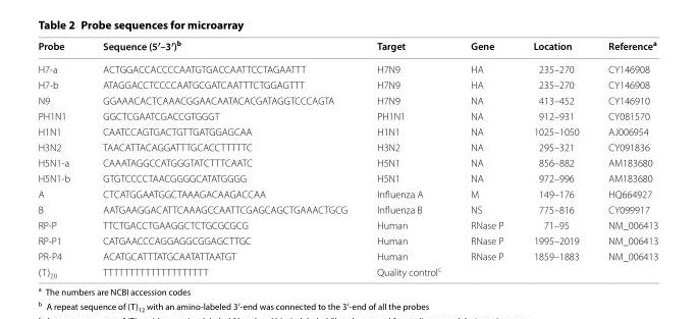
<table><thead><tr><td>Probe</td><td>Sequence (5′–3′)<sup>b</sup></td><td>Target</td><td>Gene</td><td>Location</td><td>Reference<sup>a</sup></td></tr></thead><tbody><tr><td>H7-a</td><td>ACTGGACCACCCCAATGTGACCAATTCCTAGAATTT</td><td>H7N9</td><td>HA</td><td>235–270</td><td>CY146908</td></tr><tr><td>H7-b</td><td>ATAGGACCTCCCCAATGCGATCAATTTCTGGAGTTT</td><td>H7N9</td><td>HA</td><td>235–270</td><td>CY146908</td></tr><tr><td>N9</td><td>GGAAACACTCAAACGGAACAATACACGATAGGTCCCAGTA</td><td>H7N9</td><td>NA</td><td>413–452</td><td>CY146910</td></tr><tr><td>PH1N1</td><td>GGCTCGAATCGACCGTGGGT</td><td>PH1N1</td><td>NA</td><td>912–931</td><td>CY081570</td></tr><tr><td>H1N1</td><td>CAATCCAGTGACTGTTGATGGAGCAA</td><td>H1N1</td><td>NA</td><td>1025–1050</td><td>AJ006954</td></tr><tr><td>H3N2</td><td>TAACATTACAGGATTTGCACCTTTTTC</td><td>H3N2</td><td>NA</td><td>295–321</td><td>CY091836</td></tr><tr><td>H5N1-a</td><td>CAAATAGGCCATGGGTATCTTTCAATC</td><td>H5N1</td><td>NA</td><td>856–882</td><td>AM183680</td></tr><tr><td>H5N1-b</td><td>GTGTCCCCTAACGGGGCATATGGGG</td><td>H5N1</td><td>NA</td><td>972–996</td><td>AM183680</td></tr><tr><td>A</td><td>CTCATGGAATGGCTAAAGACAAGACCAA</td><td>Influenza A</td><td>M</td><td>149–176</td><td>HQ664927</td></tr><tr><td>B</td><td>AATGAAGGACATTCAAAGCCAATTCGAGCAGCTGAAACTGCG</td><td>Influenza B</td><td>NS</td><td>775–816</td><td>CY099917</td></tr><tr><td>RP-P</td><td>TTCTGACCTGAAGGCTCTGCGCGCG</td><td>Human</td><td>RNase P</td><td>71–95</td><td>NM_006413</td></tr><tr><td>RP-P1</td><td>CATGAACCCAGGAGGCGGAGCTTGC</td><td>Human</td><td>RNase P</td><td>1995–2019</td><td>NM_006413</td></tr><tr><td>PR-P4</td><td>ACATGCATTTATGCAATATTAATGT</td><td>Human</td><td>RNase P</td><td>1859–1883</td><td>NM_006413</td></tr><tr><td>(T)<sub>20</sub></td><td>TTTTTTTTTTTTTTTTTTTT</td><td>Quality control<sup>c</sup></td><td></td><td></td><td></td></tr></tbody></table>